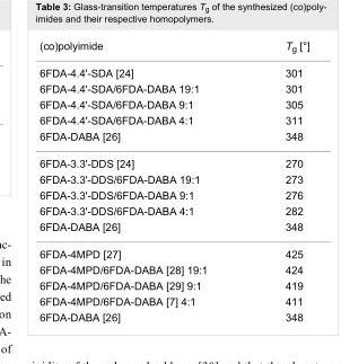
<table><tbody><tr><td>(co)polyimide</td><td>T<sub>g</sub> [°]</td></tr><tr><td>6FDA-4.4&#x27;-SDA [24]</td><td>301</td></tr><tr><td>6FDA-4.4&#x27;-SDA/6FDA-DABA 19:1</td><td>301</td></tr><tr><td>6FDA-4.4&#x27;-SDA/6FDA-DABA 9:1</td><td>305</td></tr><tr><td>6FDA-4.4&#x27;-SDA/6FDA-DABA 4:1</td><td>311</td></tr><tr><td>6FDA-DABA [26]</td><td>348</td></tr><tr><td>6FDA-3.3&#x27;-DDS [24]</td><td>270</td></tr><tr><td>6FDA-3.3&#x27;-DDS/6FDA-DABA 19:1</td><td>273</td></tr><tr><td>6FDA-3.3&#x27;-DDS/6FDA-DABA 9:1</td><td>276</td></tr><tr><td>6FDA-3.3&#x27;-DDS/6FDA-DABA 4:1</td><td>282</td></tr><tr><td>6FDA-DABA [26]</td><td>348</td></tr><tr><td>6FDA-4MPD [27]</td><td>425</td></tr><tr><td>6FDA-4MPD/6FDA-DABA [28] 19:1</td><td>424</td></tr><tr><td>6FDA-4MPD/6FDA-DABA [29] 9:1</td><td>419</td></tr><tr><td>6FDA-4MPD/6FDA-DABA [7] 4:1</td><td>411</td></tr><tr><td>6FDA-DABA [26]</td><td>348</td></tr></tbody></table>